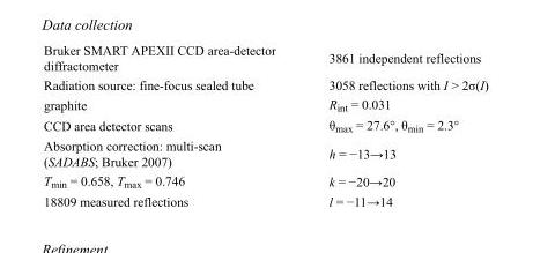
<table><tbody><tr><td>Bruker SMART APEXII CCD area-detector diffractometer</td><td>3861 independent reflections</td></tr><tr><td>Radiation source: fine-focus sealed tube</td><td>3058 reflections with I &gt; 2σ(I)</td></tr><tr><td>graphite</td><td>R<sub>int</sub> = 0.031</td></tr><tr><td>CCD area detector scans</td><td>θ<sub>max</sub> = 27.6°, θ<sub>min</sub> = 2.3°</td></tr><tr><td>Absorption correction: multi-scan (SADABS; Bruker 2007)</td><td>h = −13→13</td></tr><tr><td>T<sub>min</sub> = 0.658, T<sub>max</sub> = 0.746</td><td>k = −20→20</td></tr><tr><td>18809 measured reflections</td><td>l = −11→14</td></tr></tbody></table>